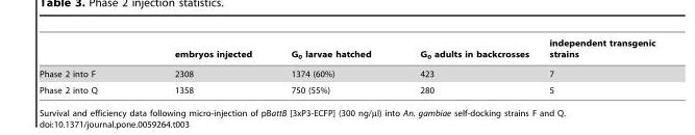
<table><thead><tr><td></td><td>embryos injected</td><td>G<sub>0</sub> larvae hatched</td><td>G<sub>0</sub> adults in backcrosses</td><td>independent transgenic strains</td></tr></thead><tbody><tr><td>Phase 2 into F</td><td>2308</td><td>1374 (60%)</td><td>423</td><td>7</td></tr><tr><td>Phase 2 into Q</td><td>1358</td><td>750 (55%)</td><td>280</td><td>5</td></tr></tbody></table>